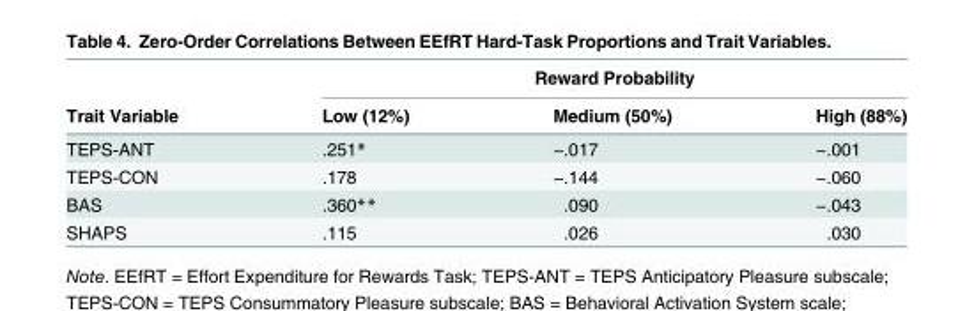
<table><thead><tr><td rowspan="2">Trait Variable</td><td colspan="3">Reward Probability</td></tr><tr><td>Low (12%)</td><td>Medium (50%)</td><td>High (88%)</td></tr></thead><tbody><tr><td>TEPS-ANT</td><td>.251*</td><td>−.017</td><td>−.001</td></tr><tr><td>TEPS-CON</td><td>.178</td><td>−.144</td><td>−.060</td></tr><tr><td>BAS</td><td>.360**</td><td>.090</td><td>−.043</td></tr><tr><td>SHAPS</td><td>.115</td><td>.026</td><td>.030</td></tr></tbody></table>